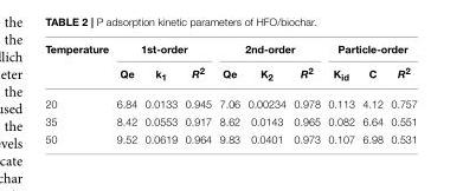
<table><thead><tr><td rowspan="2">Temperature</td><td colspan="3">1st-order</td><td colspan="3">2nd-order</td><td colspan="3">Particle-order</td></tr><tr><td>Qe</td><td>k<sub>1</sub></td><td>R<sup>2</sup></td><td>Qe</td><td>K<sub>2</sub></td><td>R<sup>2</sup></td><td>K<sub>id</sub></td><td>C</td><td>R<sup>2</sup></td></tr></thead><tbody><tr><td>20</td><td>6.84</td><td>0.0133</td><td>0.945</td><td>7.06</td><td>0.00234</td><td>0.978</td><td>0.113</td><td>4.12</td><td>0.757</td></tr><tr><td>35</td><td>8.42</td><td>0.0553</td><td>0.917</td><td>8.62</td><td>0.0143</td><td>0.965</td><td>0.082</td><td>6.64</td><td>0.551</td></tr><tr><td>50</td><td>9.52</td><td>0.0619</td><td>0.964</td><td>9.83</td><td>0.0401</td><td>0.973</td><td>0.107</td><td>6.98</td><td>0.531</td></tr></tbody></table>